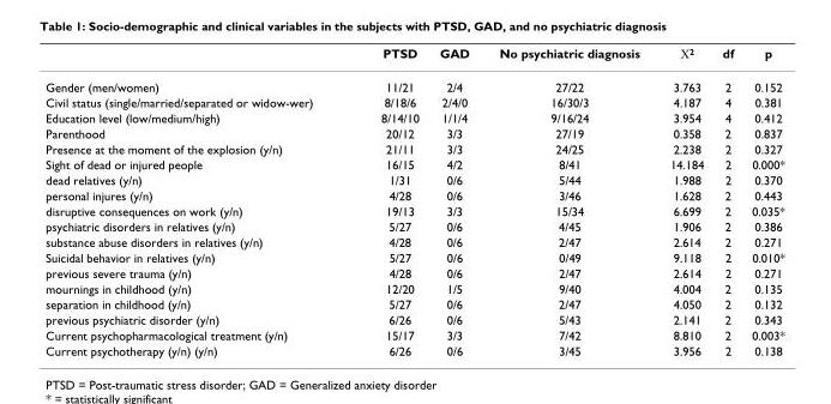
<table><thead><tr><td></td><td>PTSD</td><td>GAD</td><td>No psychiatric diagnosis</td><td>Χ<sup>2</sup></td><td>df</td><td>p</td></tr></thead><tbody><tr><td>Gender (men/women)</td><td>11/21</td><td>2/4</td><td>27/22</td><td>3.763</td><td>2</td><td>0.152</td></tr><tr><td>Civil status (single/married/separated or widow-wer)</td><td>8/18/6</td><td>2/4/0</td><td>16/30/3</td><td>4.187</td><td>4</td><td>0.381</td></tr><tr><td>Education level (low/medium/high)</td><td>8/14/10</td><td>1/1/4</td><td>9/16/24</td><td>3.954</td><td>4</td><td>0.412</td></tr><tr><td>Parenthood</td><td>20/12</td><td>3/3</td><td>27/19</td><td>0.358</td><td>2</td><td>0.837</td></tr><tr><td>Presence at the moment of the explosion (y/n)</td><td>21/11</td><td>3/3</td><td>24/25</td><td>2.238</td><td>2</td><td>0.327</td></tr><tr><td>Sight of dead or injured people</td><td>16/15</td><td>4/2</td><td>8/41</td><td>14.184</td><td>2</td><td>0.000*</td></tr><tr><td>dead relatives (y/n)</td><td>1/31</td><td>0/6</td><td>5/44</td><td>1.988</td><td>2</td><td>0.370</td></tr><tr><td>personal injures (y/n)</td><td>4/28</td><td>0/6</td><td>3/46</td><td>1.628</td><td>2</td><td>0.443</td></tr><tr><td>disruptive consequences on work (y/n)</td><td>19/13</td><td>3/3</td><td>15/34</td><td>6.699</td><td>2</td><td>0.035*</td></tr><tr><td>psychiatric disorders in relatives (y/n)</td><td>5/27</td><td>0/6</td><td>4/45</td><td>1.906</td><td>2</td><td>0.386</td></tr><tr><td>substance abuse disorders in relatives (y/n)</td><td>4/28</td><td>0/6</td><td>2/47</td><td>2.614</td><td>2</td><td>0.271</td></tr><tr><td>Suicidal behavior in relatives (y/n)</td><td>5/27</td><td>0/6</td><td>0/49</td><td>9.118</td><td>2</td><td>0.010*</td></tr><tr><td>previous severe trauma (y/n)</td><td>4/28</td><td>0/6</td><td>2/47</td><td>2.614</td><td>2</td><td>0.271</td></tr><tr><td>mournings in childhood (y/n)</td><td>12/20</td><td>1/5</td><td>9/40</td><td>4.004</td><td>2</td><td>0.135</td></tr><tr><td>separation in childhood (y/n)</td><td>5/27</td><td>0/6</td><td>2/47</td><td>4.050</td><td>2</td><td>0.132</td></tr><tr><td>previous psychiatric disorder (y/n)</td><td>6/26</td><td>0/6</td><td>5/43</td><td>2.141</td><td>2</td><td>0.343</td></tr><tr><td>Current psychopharmacological treatment (y/n)</td><td>15/17</td><td>3/3</td><td>7/42</td><td>8.810</td><td>2</td><td>0.003*</td></tr><tr><td>Current psychotherapy (y/n) (y/n)</td><td>6/26</td><td>0/6</td><td>3/45</td><td>3.956</td><td>2</td><td>0.138</td></tr></tbody></table>